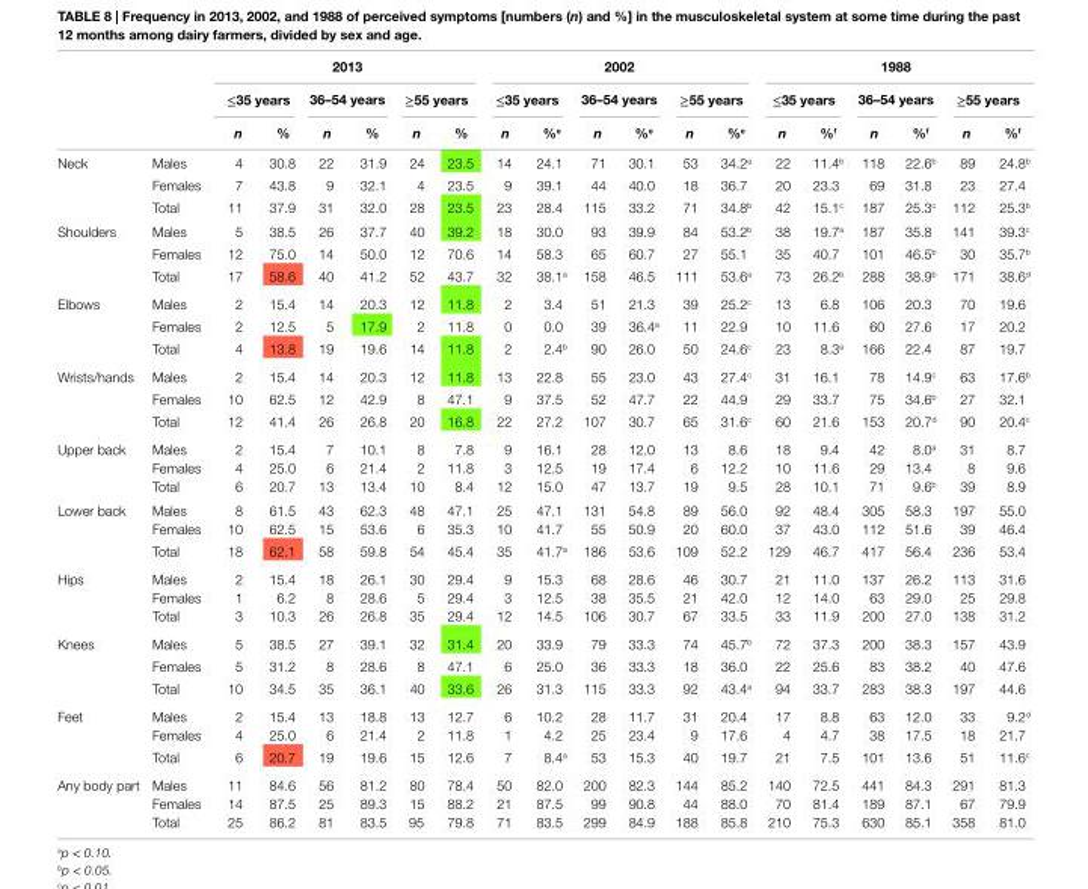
<table><thead><tr><td rowspan="3"></td><td rowspan="3"></td><td colspan="6">2013</td><td colspan="6">2002</td><td colspan="6">1988</td></tr><tr><td colspan="2">≤35 years</td><td colspan="2">36–54 years</td><td colspan="2">≥55 years</td><td colspan="2">≤35 years</td><td colspan="2">36–54 years</td><td colspan="2">≥55 years</td><td colspan="2">≤35 years</td><td colspan="2">36–54 years</td><td colspan="2">≥55 years</td></tr><tr><td>n</td><td>%</td><td>n</td><td>%</td><td>n</td><td>%</td><td>n</td><td>%<sup>e</sup></td><td>n</td><td>%<sup>e</sup></td><td>n</td><td>%<sup>e</sup></td><td>n</td><td>%<sup>f</sup></td><td>n</td><td>%<sup>f</sup></td><td>n</td><td>%<sup>f</sup></td></tr></thead><tbody><tr><td rowspan="3">Neck</td><td>Males</td><td>4</td><td>30.8</td><td>22</td><td>31.9</td><td>24</td><td>23.5</td><td>14</td><td>24.1</td><td>71</td><td>30.1</td><td>53</td><td>34.2<sup>a</sup></td><td>22</td><td>11.4<sup>b</sup></td><td>118</td><td>22.6<sup>b</sup></td><td>89</td><td>24.8<sup>b</sup></td></tr><tr><td>Females</td><td>7</td><td>43.8</td><td>9</td><td>32.1</td><td>4</td><td>23.5</td><td>9</td><td>39.1</td><td>44</td><td>40.0</td><td>18</td><td>36.7</td><td>20</td><td>23.3</td><td>69</td><td>31.8</td><td>23</td><td>27.4</td></tr><tr><td>Total</td><td>11</td><td>37.9</td><td>31</td><td>32.0</td><td>28</td><td>23.5</td><td>23</td><td>28.4</td><td>115</td><td>33.2</td><td>71</td><td>34.8<sup>b</sup></td><td>42</td><td>15.1<sup>c</sup></td><td>187</td><td>25.3<sup>c</sup></td><td>112</td><td>25.3<sup>b</sup></td></tr><tr><td rowspan="3">Shoulders</td><td>Males</td><td>5</td><td>38.5</td><td>26</td><td>37.7</td><td>40</td><td>39.2</td><td>18</td><td>30.0</td><td>93</td><td>39.9</td><td>84</td><td>53.2<sup>b</sup></td><td>38</td><td>19.7<sup>a</sup></td><td>187</td><td>35.8</td><td>141</td><td>39.3<sup>c</sup></td></tr><tr><td>Females</td><td>12</td><td>75.0</td><td>14</td><td>50.0</td><td>12</td><td>70.6</td><td>14</td><td>58.3</td><td>65</td><td>60.7</td><td>27</td><td>55.1</td><td>35</td><td>40.7</td><td>101</td><td>46.5<sup>b</sup></td><td>30</td><td>35.7<sup>b</sup></td></tr><tr><td>Total</td><td>17</td><td>58.6</td><td>40</td><td>41.2</td><td>52</td><td>43.7</td><td>32</td><td>38.1<sup>a</sup></td><td>158</td><td>46.5</td><td>111</td><td>53.6<sup>a</sup></td><td>73</td><td>26.2<sup>b</sup></td><td>288</td><td>38.9<sup>b</sup></td><td>171</td><td>38.6<sup>d</sup></td></tr><tr><td rowspan="3">Elbows</td><td>Males</td><td>2</td><td>15.4</td><td>14</td><td>20.3</td><td>12</td><td>11.8</td><td>2</td><td>3.4</td><td>51</td><td>21.3</td><td>39</td><td>25.2<sup>c</sup></td><td>13</td><td>6.8</td><td>106</td><td>20.3</td><td>70</td><td>19.6</td></tr><tr><td>Females</td><td>2</td><td>12.5</td><td>5</td><td>17.9</td><td>2</td><td>11.8</td><td>0</td><td>0.0</td><td>39</td><td>36.4<sup>a</sup></td><td>11</td><td>22.9</td><td>10</td><td>11.6</td><td>60</td><td>27.6</td><td>17</td><td>20.2</td></tr><tr><td>Total</td><td>4</td><td>13.8</td><td>19</td><td>19.6</td><td>14</td><td>11.8</td><td>2</td><td>2.4<sup>b</sup></td><td>90</td><td>26.0</td><td>50</td><td>24.6<sup>c</sup></td><td>23</td><td>8.3<sup>a</sup></td><td>166</td><td>22.4</td><td>87</td><td>19.7</td></tr><tr><td rowspan="3">Wrists/hands</td><td>Males</td><td>2</td><td>15.4</td><td>14</td><td>20.3</td><td>12</td><td>11.8</td><td>13</td><td>22.8</td><td>55</td><td>23.0</td><td>43</td><td>27.4<sup>c</sup></td><td>31</td><td>16.1</td><td>78</td><td>14.9<sup>c</sup></td><td>63</td><td>17.6<sup>b</sup></td></tr><tr><td>Females</td><td>10</td><td>62.5</td><td>12</td><td>42.9</td><td>8</td><td>47.1</td><td>9</td><td>37.5</td><td>52</td><td>47.7</td><td>22</td><td>44.9</td><td>29</td><td>33.7</td><td>75</td><td>34.6<sup>b</sup></td><td>27</td><td>32.1</td></tr><tr><td>Total</td><td>12</td><td>41.4</td><td>26</td><td>26.8</td><td>20</td><td>16.8</td><td>22</td><td>27.2</td><td>107</td><td>30.7</td><td>65</td><td>31.6<sup>c</sup></td><td>60</td><td>21.6</td><td>153</td><td>20.7<sup>d</sup></td><td>90</td><td>20.4<sup>c</sup></td></tr><tr><td rowspan="3">Upper back</td><td>Males</td><td>2</td><td>15.4</td><td>7</td><td>10.1</td><td>8</td><td>7.8</td><td>9</td><td>16.1</td><td>28</td><td>12.0</td><td>13</td><td>8.6</td><td>18</td><td>9.4</td><td>42</td><td>8.0<sup>a</sup></td><td>31</td><td>8.7</td></tr><tr><td>Females</td><td>4</td><td>25.0</td><td>6</td><td>21.4</td><td>2</td><td>11.8</td><td>3</td><td>12.5</td><td>19</td><td>17.4</td><td>6</td><td>12.2</td><td>10</td><td>11.6</td><td>29</td><td>13.4</td><td>8</td><td>9.6</td></tr><tr><td>Total</td><td>6</td><td>20.7</td><td>13</td><td>13.4</td><td>10</td><td>8.4</td><td>12</td><td>15.0</td><td>47</td><td>13.7</td><td>19</td><td>9.5</td><td>28</td><td>10.1</td><td>71</td><td>9.6<sup>b</sup></td><td>39</td><td>8.9</td></tr><tr><td rowspan="3">Lower back</td><td>Males</td><td>8</td><td>61.5</td><td>43</td><td>62.3</td><td>48</td><td>47.1</td><td>25</td><td>47.1</td><td>131</td><td>54.8</td><td>89</td><td>56.0</td><td>92</td><td>48.4</td><td>305</td><td>58.3</td><td>197</td><td>55.0</td></tr><tr><td>Females</td><td>10</td><td>62.5</td><td>15</td><td>53.6</td><td>6</td><td>35.3</td><td>10</td><td>41.7</td><td>55</td><td>50.9</td><td>20</td><td>60.0</td><td>37</td><td>43.0</td><td>112</td><td>51.6</td><td>39</td><td>46.4</td></tr><tr><td>Total</td><td>18</td><td>62.1</td><td>58</td><td>59.8</td><td>54</td><td>45.4</td><td>35</td><td>41.7<sup>a</sup></td><td>186</td><td>53.6</td><td>109</td><td>52.2</td><td>129</td><td>46.7</td><td>417</td><td>56.4</td><td>236</td><td>53.4</td></tr><tr><td rowspan="3">Hips</td><td>Males</td><td>2</td><td>15.4</td><td>18</td><td>26.1</td><td>30</td><td>29.4</td><td>9</td><td>15.3</td><td>68</td><td>28.6</td><td>46</td><td>30.7</td><td>21</td><td>11.0</td><td>137</td><td>26.2</td><td>113</td><td>31.6</td></tr><tr><td>Females</td><td>1</td><td>6.2</td><td>8</td><td>28.6</td><td>5</td><td>29.4</td><td>3</td><td>12.5</td><td>38</td><td>35.5</td><td>21</td><td>42.0</td><td>12</td><td>14.0</td><td>63</td><td>29.0</td><td>25</td><td>29.8</td></tr><tr><td>Total</td><td>3</td><td>10.3</td><td>26</td><td>26.8</td><td>35</td><td>29.4</td><td>12</td><td>14.5</td><td>106</td><td>30.7</td><td>67</td><td>33.5</td><td>33</td><td>11.9</td><td>200</td><td>27.0</td><td>138</td><td>31.2</td></tr><tr><td rowspan="3">Knees</td><td>Males</td><td>5</td><td>38.5</td><td>27</td><td>39.1</td><td>32</td><td>31.4</td><td>20</td><td>33.9</td><td>79</td><td>33.3</td><td>74</td><td>45.7<sup>b</sup></td><td>72</td><td>37.3</td><td>200</td><td>38.3</td><td>157</td><td>43.9</td></tr><tr><td>Females</td><td>5</td><td>31.2</td><td>8</td><td>28.6</td><td>8</td><td>47.1</td><td>6</td><td>25.0</td><td>36</td><td>33.3</td><td>18</td><td>36.0</td><td>22</td><td>25.6</td><td>83</td><td>38.2</td><td>40</td><td>47.6</td></tr><tr><td>Total</td><td>10</td><td>34.5</td><td>35</td><td>36.1</td><td>40</td><td>33.6</td><td>26</td><td>31.3</td><td>115</td><td>33.3</td><td>92</td><td>43.4<sup>a</sup></td><td>94</td><td>33.7</td><td>283</td><td>38.3</td><td>197</td><td>44.6</td></tr><tr><td rowspan="3">Feet</td><td>Males</td><td>2</td><td>15.4</td><td>13</td><td>18.8</td><td>13</td><td>12.7</td><td>6</td><td>10.2</td><td>28</td><td>11.7</td><td>31</td><td>20.4</td><td>17</td><td>8.8</td><td>63</td><td>12.0</td><td>33</td><td>9.2<sup>d</sup></td></tr><tr><td>Females</td><td>4</td><td>25.0</td><td>6</td><td>21.4</td><td>2</td><td>11.8</td><td>1</td><td>4.2</td><td>25</td><td>23.4</td><td>9</td><td>17.6</td><td>4</td><td>4.7</td><td>38</td><td>17.5</td><td>18</td><td>21.7</td></tr><tr><td>Total</td><td>6</td><td>20.7</td><td>19</td><td>19.6</td><td>15</td><td>12.6</td><td>7</td><td>8.4<sup>a</sup></td><td>53</td><td>15.3</td><td>40</td><td>19.7</td><td>21</td><td>7.5</td><td>101</td><td>13.6</td><td>51</td><td>11.6<sup>c</sup></td></tr><tr><td rowspan="3">Any body part</td><td>Males</td><td>11</td><td>84.6</td><td>56</td><td>81.2</td><td>80</td><td>78.4</td><td>50</td><td>82.0</td><td>200</td><td>82.3</td><td>144</td><td>85.2</td><td>140</td><td>72.5</td><td>441</td><td>84.3</td><td>291</td><td>81.3</td></tr><tr><td>Females</td><td>14</td><td>87.5</td><td>25</td><td>89.3</td><td>15</td><td>88.2</td><td>21</td><td>87.5</td><td>99</td><td>90.8</td><td>44</td><td>88.0</td><td>70</td><td>81.4</td><td>189</td><td>87.1</td><td>67</td><td>79.9</td></tr><tr><td>Total</td><td>25</td><td>86.2</td><td>81</td><td>83.5</td><td>95</td><td>79.8</td><td>71</td><td>83.5</td><td>299</td><td>84.9</td><td>188</td><td>85.8</td><td>210</td><td>75.3</td><td>630</td><td>85.1</td><td>358</td><td>81.0</td></tr></tbody></table>